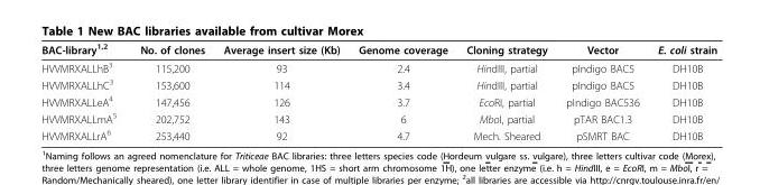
<table><thead><tr><td>BAC-library<sup>1,2</sup></td><td>No. of clones</td><td>Average insert size (Kb)</td><td>Genome coverage</td><td>Cloning strategy</td><td>Vector</td><td>E. coli strain</td></tr></thead><tbody><tr><td>HVVMRXALLhB<sup>3</sup></td><td>115,200</td><td>93</td><td>2.4</td><td>HindIII, partial</td><td>pIndigo BAC5</td><td>DH10B</td></tr><tr><td>HVVMRXALLhC<sup>3</sup></td><td>153,600</td><td>114</td><td>3.4</td><td>HindIII, partial</td><td>pIndigo BAC5</td><td>DH10B</td></tr><tr><td>HVVMRXALLeA<sup>4</sup></td><td>147,456</td><td>126</td><td>3.7</td><td>EcoRI, partial</td><td>pIndigo BAC536</td><td>DH10B</td></tr><tr><td>HVVMRXALLmA<sup>5</sup></td><td>202,752</td><td>143</td><td>6</td><td>MboI, partial</td><td>pTAR BAC1.3</td><td>DH10B</td></tr><tr><td>HVVMRXALLrA<sup>6</sup></td><td>253,440</td><td>92</td><td>4.7</td><td>Mech. Sheared</td><td>pSMRT BAC</td><td>DH10B</td></tr></tbody></table>